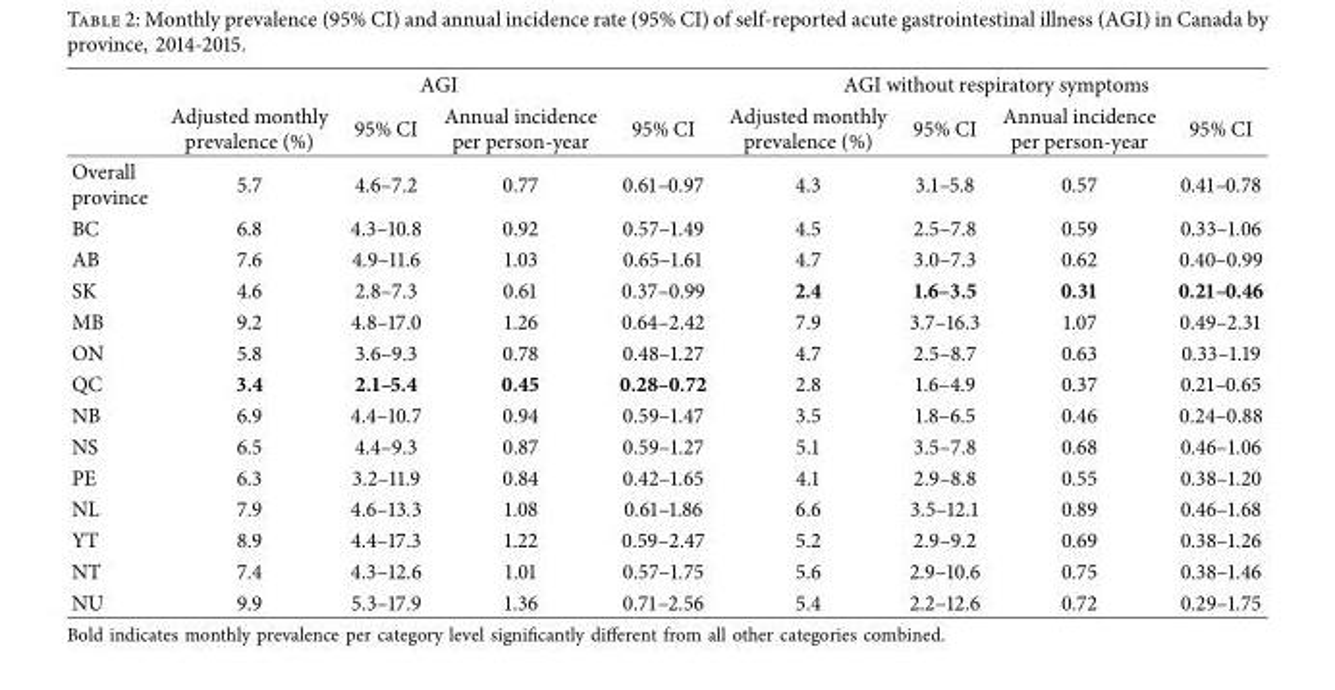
<table><thead><tr><td rowspan="2"></td><td colspan="4">AGI</td><td colspan="4">AGI without respiratory symptoms</td></tr><tr><td>Adjusted monthly prevalence (%)</td><td>95% CI</td><td>Annual incidence per person-year</td><td>95% CI</td><td>Adjusted monthly prevalence (%)</td><td>95% CI</td><td>Annual incidence per person-year</td><td>95% CI</td></tr></thead><tbody><tr><td>Overall province</td><td>5.7</td><td>4.6–7.2</td><td>0.77</td><td>0.61–0.97</td><td>4.3</td><td>3.1–5.8</td><td>0.57</td><td>0.41–0.78</td></tr><tr><td>BC</td><td>6.8</td><td>4.3–10.8</td><td>0.92</td><td>0.57–1.49</td><td>4.5</td><td>2.5–7.8</td><td>0.59</td><td>0.33–1.06</td></tr><tr><td>AB</td><td>7.6</td><td>4.9–11.6</td><td>1.03</td><td>0.65–1.61</td><td>4.7</td><td>3.0–7.3</td><td>0.62</td><td>0.40–0.99</td></tr><tr><td>SK</td><td>4.6</td><td>2.8–7.3</td><td>0.61</td><td>0.37–0.99</td><td>2.4</td><td>1.6–3.5</td><td>0.31</td><td>0.21–0.46</td></tr><tr><td>MB</td><td>9.2</td><td>4.8–17.0</td><td>1.26</td><td>0.64–2.42</td><td>7.9</td><td>3.7–16.3</td><td>1.07</td><td>0.49–2.31</td></tr><tr><td>ON</td><td>5.8</td><td>3.6–9.3</td><td>0.78</td><td>0.48–1.27</td><td>4.7</td><td>2.5–8.7</td><td>0.63</td><td>0.33–1.19</td></tr><tr><td>QC</td><td>3.4</td><td>2.1–5.4</td><td>0.45</td><td>0.28–0.72</td><td>2.8</td><td>1.6–4.9</td><td>0.37</td><td>0.21–0.65</td></tr><tr><td>NB</td><td>6.9</td><td>4.4–10.7</td><td>0.94</td><td>0.59–1.47</td><td>3.5</td><td>1.8–6.5</td><td>0.46</td><td>0.24–0.88</td></tr><tr><td>NS</td><td>6.5</td><td>4.4–9.3</td><td>0.87</td><td>0.59–1.27</td><td>5.1</td><td>3.5–7.8</td><td>0.68</td><td>0.46–1.06</td></tr><tr><td>PE</td><td>6.3</td><td>3.2–11.9</td><td>0.84</td><td>0.42–1.65</td><td>4.1</td><td>2.9–8.8</td><td>0.55</td><td>0.38–1.20</td></tr><tr><td>NL</td><td>7.9</td><td>4.6–13.3</td><td>1.08</td><td>0.61–1.86</td><td>6.6</td><td>3.5–12.1</td><td>0.89</td><td>0.46–1.68</td></tr><tr><td>YT</td><td>8.9</td><td>4.4–17.3</td><td>1.22</td><td>0.59–2.47</td><td>5.2</td><td>2.9–9.2</td><td>0.69</td><td>0.38–1.26</td></tr><tr><td>NT</td><td>7.4</td><td>4.3–12.6</td><td>1.01</td><td>0.57–1.75</td><td>5.6</td><td>2.9–10.6</td><td>0.75</td><td>0.38–1.46</td></tr><tr><td>NU</td><td>9.9</td><td>5.3–17.9</td><td>1.36</td><td>0.71–2.56</td><td>5.4</td><td>2.2–12.6</td><td>0.72</td><td>0.29–1.75</td></tr></tbody></table>